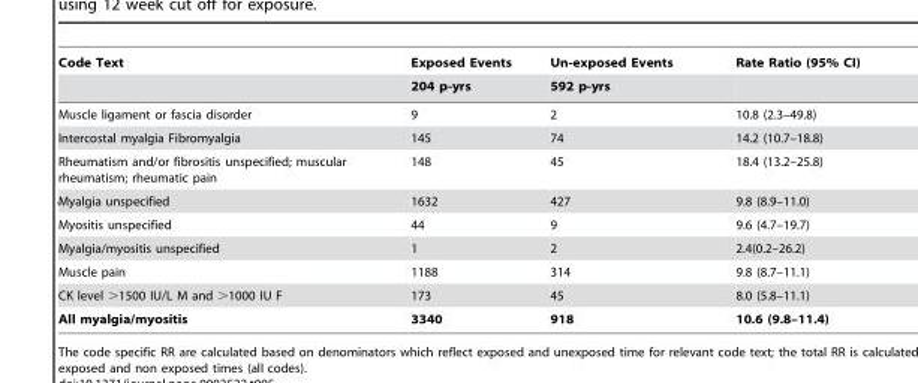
<table><thead><tr><td rowspan="2">Code Text</td><td rowspan="2">Exposed Events 204 p-yrs</td><td rowspan="2">Un-exposed Events 592 p-yrs</td><td rowspan="2">Rate Ratio (95% CI)</td></tr><tr></tr></thead><tbody><tr><td>Muscle ligament or fascia disorder</td><td>9</td><td>2</td><td>10.8 (2.3–49.8)</td></tr><tr><td>Intercostal myalgia Fibromyalgia</td><td>145</td><td>74</td><td>14.2 (10.7–18.8)</td></tr><tr><td>Rheumatism and/or fibrositis unspecified; muscular rheumatism; rheumatic pain</td><td>148</td><td>45</td><td>18.4 (13.2–25.8)</td></tr><tr><td>`Myalgia unspecified</td><td>1632</td><td>427</td><td>9.8 (8.9–11.0)</td></tr><tr><td>Myositis unspecified</td><td>44</td><td>9</td><td>9.6 (4.7–19.7)</td></tr><tr><td>Myalgia/myositis unspecified</td><td>1</td><td>2</td><td>2.4(0.2–26.2)</td></tr><tr><td>Muscle pain</td><td>1188</td><td>314</td><td>9.8 (8.7–11.1)</td></tr><tr><td>CK level &gt;1500 IU/L M and &gt;1000 IU F</td><td>173</td><td>45</td><td>8.0 (5.8–11.1)</td></tr><tr><td>All myalgia/myositis</td><td>3340</td><td>918</td><td>10.6 (9.8–11.4)</td></tr></tbody></table>